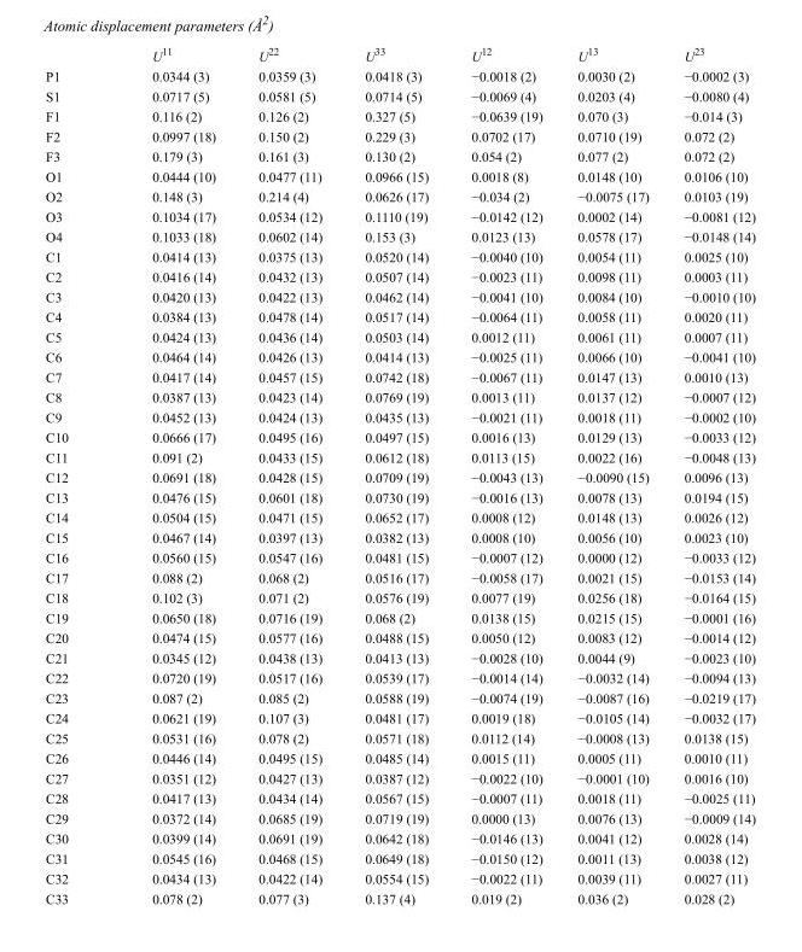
<table><thead><tr><td></td><td>U<sup>11</sup></td><td>U<sup>22</sup></td><td>U<sup>33</sup></td><td>U<sup>12</sup></td><td>U<sup>13</sup></td><td>U<sup>23</sup></td></tr></thead><tbody><tr><td>P1</td><td>0.0344 (3)</td><td>0.0359 (3)</td><td>0.0418 (3)</td><td>−0.0018 (2)</td><td>0.0030 (2)</td><td>−0.0002 (3)</td></tr><tr><td>S1</td><td>0.0717 (5)</td><td>0.0581 (5)</td><td>0.0714 (5)</td><td>−0.0069 (4)</td><td>0.0203 (4)</td><td>−0.0080 (4)</td></tr><tr><td>F1</td><td>0.116 (2)</td><td>0.126 (2)</td><td>0.327 (5)</td><td>−0.0639 (19)</td><td>0.070 (3)</td><td>−0.014 (3)</td></tr><tr><td>F2</td><td>0.0997 (18)</td><td>0.150 (2)</td><td>0.229 (3)</td><td>0.0702 (17)</td><td>0.0710 (19)</td><td>0.072 (2)</td></tr><tr><td>F3</td><td>0.179 (3)</td><td>0.161 (3)</td><td>0.130 (2)</td><td>0.054 (2)</td><td>0.077 (2)</td><td>0.072 (2)</td></tr><tr><td>O1</td><td>0.0444 (10)</td><td>0.0477 (11)</td><td>0.0966 (15)</td><td>0.0018 (8)</td><td>0.0148 (10)</td><td>0.0106 (10)</td></tr><tr><td>O2</td><td>0.148 (3)</td><td>0.214 (4)</td><td>0.0626 (17)</td><td>−0.034 (2)</td><td>−0.0075 (17)</td><td>0.0103 (19)</td></tr><tr><td>O3</td><td>0.1034 (17)</td><td>0.0534 (12)</td><td>0.1110 (19)</td><td>−0.0142 (12)</td><td>0.0002 (14)</td><td>−0.0081 (12)</td></tr><tr><td>O4</td><td>0.1033 (18)</td><td>0.0602 (14)</td><td>0.153 (3)</td><td>0.0123 (13)</td><td>0.0578 (17)</td><td>−0.0148 (14)</td></tr><tr><td>C1</td><td>0.0414 (13)</td><td>0.0375 (13)</td><td>0.0520 (14)</td><td>−0.0040 (10)</td><td>0.0054 (11)</td><td>0.0025 (10)</td></tr><tr><td>C2</td><td>0.0416 (14)</td><td>0.0432 (13)</td><td>0.0507 (14)</td><td>−0.0023 (11)</td><td>0.0098 (11)</td><td>0.0003 (11)</td></tr><tr><td>C3</td><td>0.0420 (13)</td><td>0.0422 (13)</td><td>0.0462 (14)</td><td>−0.0041 (10)</td><td>0.0084 (10)</td><td>−0.0010 (10)</td></tr><tr><td>C4</td><td>0.0384 (13)</td><td>0.0478 (14)</td><td>0.0517 (14)</td><td>−0.0064 (11)</td><td>0.0058 (11)</td><td>0.0020 (11)</td></tr><tr><td>C5</td><td>0.0424 (13)</td><td>0.0436 (14)</td><td>0.0503 (14)</td><td>0.0012 (11)</td><td>0.0061 (11)</td><td>0.0007 (11)</td></tr><tr><td>C6</td><td>0.0464 (14)</td><td>0.0426 (13)</td><td>0.0414 (13)</td><td>−0.0025 (11)</td><td>0.0066 (10)</td><td>−0.0041 (10)</td></tr><tr><td>C7</td><td>0.0417 (14)</td><td>0.0457 (15)</td><td>0.0742 (18)</td><td>−0.0067 (11)</td><td>0.0147 (13)</td><td>0.0010 (13)</td></tr><tr><td>C8</td><td>0.0387 (13)</td><td>0.0423 (14)</td><td>0.0769 (19)</td><td>0.0013 (11)</td><td>0.0137 (12)</td><td>−0.0007 (12)</td></tr><tr><td>C9</td><td>0.0452 (13)</td><td>0.0424 (13)</td><td>0.0435 (13)</td><td>−0.0021 (11)</td><td>0.0018 (11)</td><td>−0.0002 (10)</td></tr><tr><td>C10</td><td>0.0666 (17)</td><td>0.0495 (16)</td><td>0.0497 (15)</td><td>0.0016 (13)</td><td>0.0129 (13)</td><td>−0.0033 (12)</td></tr><tr><td>C11</td><td>0.091 (2)</td><td>0.0433 (15)</td><td>0.0612 (18)</td><td>0.0113 (15)</td><td>0.0022 (16)</td><td>−0.0048 (13)</td></tr><tr><td>C12</td><td>0.0691 (18)</td><td>0.0428 (15)</td><td>0.0709 (19)</td><td>−0.0043 (13)</td><td>−0.0090 (15)</td><td>0.0096 (13)</td></tr><tr><td>C13</td><td>0.0476 (15)</td><td>0.0601 (18)</td><td>0.0730 (19)</td><td>−0.0016 (13)</td><td>0.0078 (13)</td><td>0.0194 (15)</td></tr><tr><td>C14</td><td>0.0504 (15)</td><td>0.0471 (15)</td><td>0.0652 (17)</td><td>0.0008 (12)</td><td>0.0148 (13)</td><td>0.0026 (12)</td></tr><tr><td>C15</td><td>0.0467 (14)</td><td>0.0397 (13)</td><td>0.0382 (13)</td><td>0.0008 (10)</td><td>0.0056 (10)</td><td>0.0023 (10)</td></tr><tr><td>C16</td><td>0.0560 (15)</td><td>0.0547 (16)</td><td>0.0481 (15)</td><td>−0.0007 (12)</td><td>0.0000 (12)</td><td>−0.0033 (12)</td></tr><tr><td>C17</td><td>0.088 (2)</td><td>0.068 (2)</td><td>0.0516 (17)</td><td>−0.0058 (17)</td><td>0.0021 (15)</td><td>−0.0153 (14)</td></tr><tr><td>C18</td><td>0.102 (3)</td><td>0.071 (2)</td><td>0.0576 (19)</td><td>0.0077 (19)</td><td>0.0256 (18)</td><td>−0.0164 (15)</td></tr><tr><td>C19</td><td>0.0650 (18)</td><td>0.0716 (19)</td><td>0.068 (2)</td><td>0.0138 (15)</td><td>0.0215 (15)</td><td>−0.0001 (16)</td></tr><tr><td>C20</td><td>0.0474 (15)</td><td>0.0577 (16)</td><td>0.0488 (15)</td><td>0.0050 (12)</td><td>0.0083 (12)</td><td>−0.0014 (12)</td></tr><tr><td>C21</td><td>0.0345 (12)</td><td>0.0438 (13)</td><td>0.0413 (13)</td><td>−0.0028 (10)</td><td>0.0044 (9)</td><td>−0.0023 (10)</td></tr><tr><td>C22</td><td>0.0720 (19)</td><td>0.0517 (16)</td><td>0.0539 (17)</td><td>−0.0014 (14)</td><td>−0.0032 (14)</td><td>−0.0094 (13)</td></tr><tr><td>C23</td><td>0.087 (2)</td><td>0.085 (2)</td><td>0.0588 (19)</td><td>−0.0074 (19)</td><td>−0.0087 (16)</td><td>−0.0219 (17)</td></tr><tr><td>C24</td><td>0.0621 (19)</td><td>0.107 (3)</td><td>0.0481 (17)</td><td>0.0019 (18)</td><td>−0.0105 (14)</td><td>−0.0032 (17)</td></tr><tr><td>C25</td><td>0.0531 (16)</td><td>0.078 (2)</td><td>0.0571 (18)</td><td>0.0112 (14)</td><td>−0.0008 (13)</td><td>0.0138 (15)</td></tr><tr><td>C26</td><td>0.0446 (14)</td><td>0.0495 (15)</td><td>0.0485 (14)</td><td>0.0015 (11)</td><td>0.0005 (11)</td><td>0.0010 (11)</td></tr><tr><td>C27</td><td>0.0351 (12)</td><td>0.0427 (13)</td><td>0.0387 (12)</td><td>−0.0022 (10)</td><td>−0.0001 (10)</td><td>0.0016 (10)</td></tr><tr><td>C28</td><td>0.0417 (13)</td><td>0.0434 (14)</td><td>0.0567 (15)</td><td>−0.0007 (11)</td><td>0.0018 (11)</td><td>−0.0025 (11)</td></tr><tr><td>C29</td><td>0.0372 (14)</td><td>0.0685 (19)</td><td>0.0719 (19)</td><td>0.0000 (13)</td><td>0.0076 (13)</td><td>−0.0009 (14)</td></tr><tr><td>C30</td><td>0.0399 (14)</td><td>0.0691 (19)</td><td>0.0642 (18)</td><td>−0.0146 (13)</td><td>0.0041 (12)</td><td>0.0028 (14)</td></tr><tr><td>C31</td><td>0.0545 (16)</td><td>0.0468 (15)</td><td>0.0649 (18)</td><td>−0.0150 (12)</td><td>0.0011 (13)</td><td>0.0038 (12)</td></tr><tr><td>C32</td><td>0.0434 (13)</td><td>0.0422 (14)</td><td>0.0554 (15)</td><td>−0.0022 (11)</td><td>0.0039 (11)</td><td>0.0027 (11)</td></tr><tr><td>C33</td><td>0.078 (2)</td><td>0.077 (3)</td><td>0.137 (4)</td><td>0.019 (2)</td><td>0.036 (2)</td><td>0.028 (2)</td></tr></tbody></table>